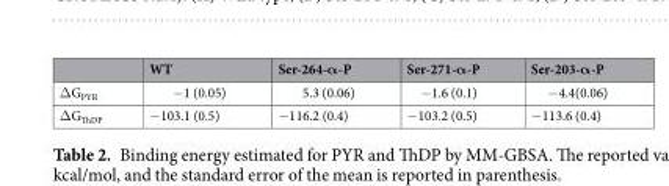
<table><thead><tr><td></td><td>WT</td><td>Ser-264-α-P</td><td>Ser-271-α-P</td><td>Ser-203-α-P</td></tr></thead><tbody><tr><td>ΔG<sub>PYR</sub></td><td>−1 (0.05)</td><td>5.3 (0.06)</td><td>−1.6 (0.1)</td><td>−4.4(0.06)</td></tr><tr><td>ΔG<sub>ThDP</sub></td><td>−103.1 (0.5)</td><td>−116.2 (0.4)</td><td>−103.2 (0.5)</td><td>−113.6 (0.4)</td></tr></tbody></table>